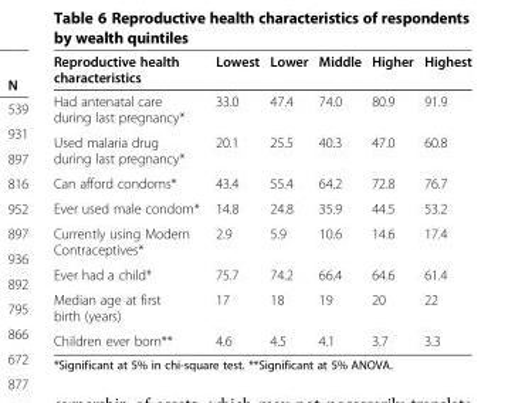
<table><thead><tr><td>Reproductive health characteristics</td><td>Lowest</td><td>Lower</td><td>Middle</td><td>Higher</td><td>Highest</td></tr></thead><tbody><tr><td>Had antenatal care during last pregnancy*</td><td>33.0</td><td>47.4</td><td>74.0</td><td>80.9</td><td>91.9</td></tr><tr><td>Used malaria drug during last pregnancy*</td><td>20.1</td><td>25.5</td><td>40.3</td><td>47.0</td><td>60.8</td></tr><tr><td>Can afford condoms*</td><td>43.4</td><td>55.4</td><td>64.2</td><td>72.8</td><td>76.7</td></tr><tr><td>Ever used male condom*</td><td>14.8</td><td>24.8</td><td>35.9</td><td>44.5</td><td>53.2</td></tr><tr><td>Currently using Modern Contraceptives*</td><td>2.9</td><td>5.9</td><td>10.6</td><td>14.6</td><td>17.4</td></tr><tr><td>Ever had a child*</td><td>75.7</td><td>74.2</td><td>66.4</td><td>64.6</td><td>61.4</td></tr><tr><td>Median age at first birth (years)</td><td>17</td><td>18</td><td>19</td><td>20</td><td>22</td></tr><tr><td>Children ever born**</td><td>4.6</td><td>4.5</td><td>4.1</td><td>3.7</td><td>3.3</td></tr></tbody></table>